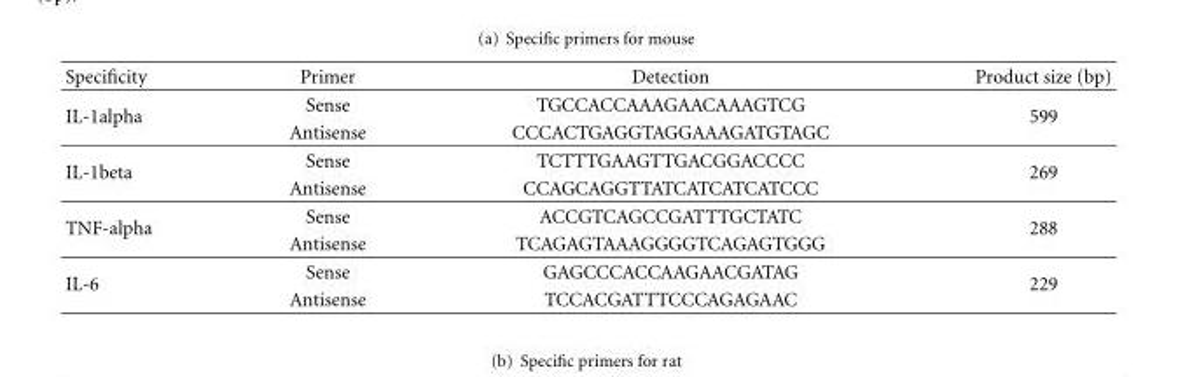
<table><thead><tr><td>Specificity</td><td>Primer</td><td>Detection</td><td>Product size (bp)</td></tr></thead><tbody><tr><td rowspan="2">IL-1alpha</td><td>Sense</td><td>TGCCACCAAAGAACAAAGTCG</td><td rowspan="2">599</td></tr><tr><td>Antisense</td><td>CCCACTGAGGTAGGAAAGATGTAGC</td></tr><tr><td rowspan="2">IL-1beta</td><td>Sense</td><td>TCTTTGAAGTTGACGGACCCC</td><td rowspan="2">269</td></tr><tr><td>Antisense</td><td>CCAGCAGGTTATCATCATCATCCC</td></tr><tr><td rowspan="2">TNF-alpha</td><td>Sense</td><td>ACCGTCAGCCGATTTGCTATC</td><td rowspan="2">288</td></tr><tr><td>Antisense</td><td>TCAGAGTAAAGGGGTCAGAGTGGG</td></tr><tr><td rowspan="2">IL-6</td><td>Sense</td><td>GAGCCCACCAAGAACGATAG</td><td rowspan="2">229</td></tr><tr><td>Antisense</td><td>TCCACGATTTCCCAGAGAAC</td></tr></tbody></table>